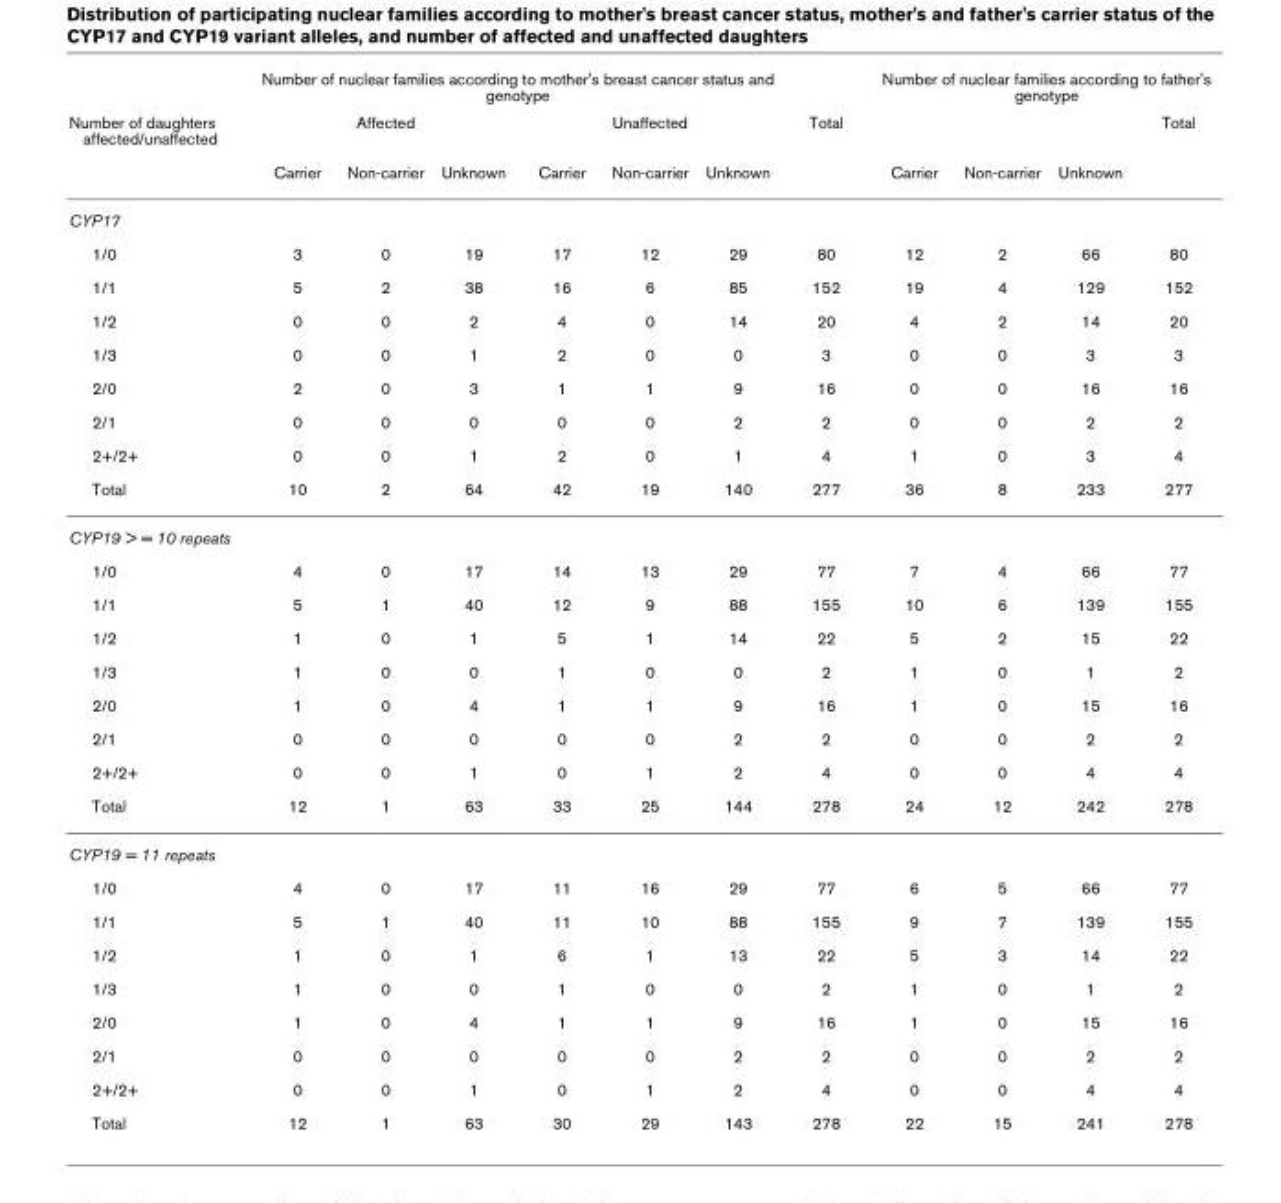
<table><thead><tr><td rowspan="3">Number of daughters affected/unaffected</td><td colspan="6">Number of nuclear families according to mother&#x27;s breast cancer status and genotype</td><td rowspan="3">Total</td><td colspan="4">Number of nuclear families according to father&#x27;s genotype</td></tr><tr><td colspan="3">Affected</td><td colspan="3">Unaffected</td><td rowspan="2">Carrier</td><td rowspan="2">Non-carrier</td><td rowspan="2">Unknown</td><td rowspan="2">Total</td></tr><tr><td>Carrier</td><td>Non-carrier</td><td>Unknown</td><td>Carrier</td><td>Non-carrier</td><td>Unknown</td></tr></thead><tbody><tr><td colspan="12">CYP17</td></tr><tr><td>1/0</td><td>3</td><td>0</td><td>19</td><td>17</td><td>12</td><td>29</td><td>80</td><td>12</td><td>2</td><td>66</td><td>80</td></tr><tr><td>1/1</td><td>5</td><td>2</td><td>38</td><td>16</td><td>6</td><td>85</td><td>152</td><td>19</td><td>4</td><td>129</td><td>152</td></tr><tr><td>1/2</td><td>0</td><td>0</td><td>2</td><td>4</td><td>0</td><td>14</td><td>20</td><td>4</td><td>2</td><td>14</td><td>20</td></tr><tr><td>1/3</td><td>0</td><td>0</td><td>1</td><td>2</td><td>0</td><td>0</td><td>3</td><td>0</td><td>0</td><td>3</td><td>3</td></tr><tr><td>2/0</td><td>2</td><td>0</td><td>3</td><td>1</td><td>1</td><td>9</td><td>16</td><td>0</td><td>0</td><td>16</td><td>16</td></tr><tr><td>2/1</td><td>0</td><td>0</td><td>0</td><td>0</td><td>0</td><td>2</td><td>2</td><td>0</td><td>0</td><td>2</td><td>2</td></tr><tr><td>2+/2+</td><td>0</td><td>0</td><td>1</td><td>2</td><td>0</td><td>1</td><td>4</td><td>1</td><td>0</td><td>3</td><td>4</td></tr><tr><td>Total</td><td>10</td><td>2</td><td>64</td><td>42</td><td>19</td><td>140</td><td>277</td><td>36</td><td>8</td><td>233</td><td>277</td></tr><tr><td colspan="12">CYP19 &gt; = 10 repeats</td></tr><tr><td>1/0</td><td>4</td><td>0</td><td>17</td><td>14</td><td>13</td><td>29</td><td>77</td><td>7</td><td>4</td><td>66</td><td>77</td></tr><tr><td>1/1</td><td>5</td><td>1</td><td>40</td><td>12</td><td>9</td><td>88</td><td>155</td><td>10</td><td>6</td><td>139</td><td>155</td></tr><tr><td>1/2</td><td>1</td><td>0</td><td>1</td><td>5</td><td>1</td><td>14</td><td>22</td><td>5</td><td>2</td><td>15</td><td>22</td></tr><tr><td>1/3</td><td>1</td><td>0</td><td>0</td><td>1</td><td>0</td><td>0</td><td>2</td><td>1</td><td>0</td><td>1</td><td>2</td></tr><tr><td>2/0</td><td>1</td><td>0</td><td>4</td><td>1</td><td>1</td><td>9</td><td>16</td><td>1</td><td>0</td><td>15</td><td>16</td></tr><tr><td>2/1</td><td>0</td><td>0</td><td>0</td><td>0</td><td>0</td><td>2</td><td>2</td><td>0</td><td>0</td><td>2</td><td>2</td></tr><tr><td>2+/2+</td><td>0</td><td>0</td><td>1</td><td>0</td><td>1</td><td>2</td><td>4</td><td>0</td><td>0</td><td>4</td><td>4</td></tr><tr><td>Total</td><td>12</td><td>1</td><td>63</td><td>33</td><td>25</td><td>144</td><td>278</td><td>24</td><td>12</td><td>242</td><td>278</td></tr><tr><td colspan="12">CYP19 = 11 repeats</td></tr><tr><td>1/0</td><td>4</td><td>0</td><td>17</td><td>11</td><td>16</td><td>29</td><td>77</td><td>6</td><td>5</td><td>66</td><td>77</td></tr><tr><td>1/1</td><td>5</td><td>1</td><td>40</td><td>11</td><td>10</td><td>88</td><td>155</td><td>9</td><td>7</td><td>139</td><td>155</td></tr><tr><td>1/2</td><td>1</td><td>0</td><td>1</td><td>6</td><td>1</td><td>13</td><td>22</td><td>5</td><td>3</td><td>14</td><td>22</td></tr><tr><td>1/3</td><td>1</td><td>0</td><td>0</td><td>1</td><td>0</td><td>0</td><td>2</td><td>1</td><td>0</td><td>1</td><td>2</td></tr><tr><td>2/0</td><td>1</td><td>0</td><td>4</td><td>1</td><td>1</td><td>9</td><td>16</td><td>1</td><td>0</td><td>15</td><td>16</td></tr><tr><td>2/1</td><td>0</td><td>0</td><td>0</td><td>0</td><td>0</td><td>2</td><td>2</td><td>0</td><td>0</td><td>2</td><td>2</td></tr><tr><td>2+/2+</td><td>0</td><td>0</td><td>1</td><td>0</td><td>1</td><td>2</td><td>4</td><td>0</td><td>0</td><td>4</td><td>4</td></tr><tr><td>Total</td><td>12</td><td>1</td><td>63</td><td>30</td><td>29</td><td>143</td><td>278</td><td>22</td><td>15</td><td>241</td><td>278</td></tr></tbody></table>